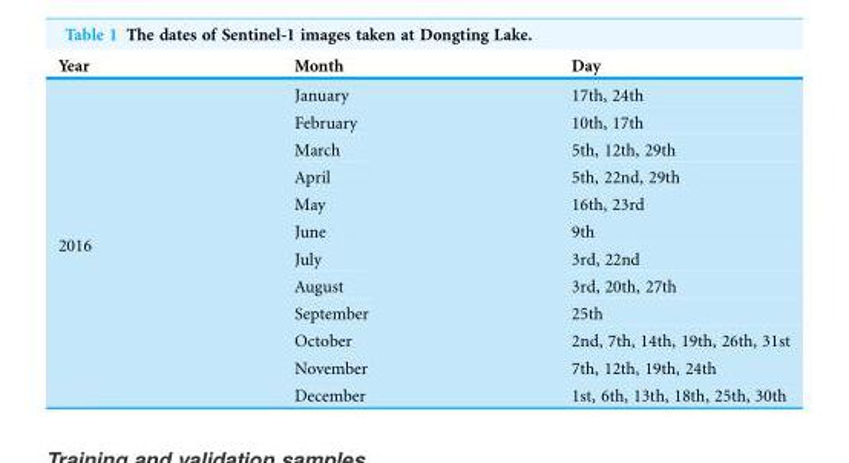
<table><thead><tr><td>Year</td><td>Month</td><td>Day</td></tr></thead><tbody><tr><td rowspan="12">2016</td><td>January</td><td>17th, 24th</td></tr><tr><td>February</td><td>10th, 17th</td></tr><tr><td>March</td><td>5th, 12th, 29th</td></tr><tr><td>April</td><td>5th, 22nd, 29th</td></tr><tr><td>May</td><td>16th, 23rd</td></tr><tr><td>June</td><td>9th</td></tr><tr><td>July</td><td>3rd, 22nd</td></tr><tr><td>August</td><td>3rd, 20th, 27th</td></tr><tr><td>September</td><td>25th</td></tr><tr><td>October</td><td>2nd, 7th, 14th, 19th, 26th, 31st</td></tr><tr><td>November</td><td>7th, 12th, 19th, 24th</td></tr><tr><td>December</td><td>1st, 6th, 13th, 18th, 25th, 30th</td></tr></tbody></table>